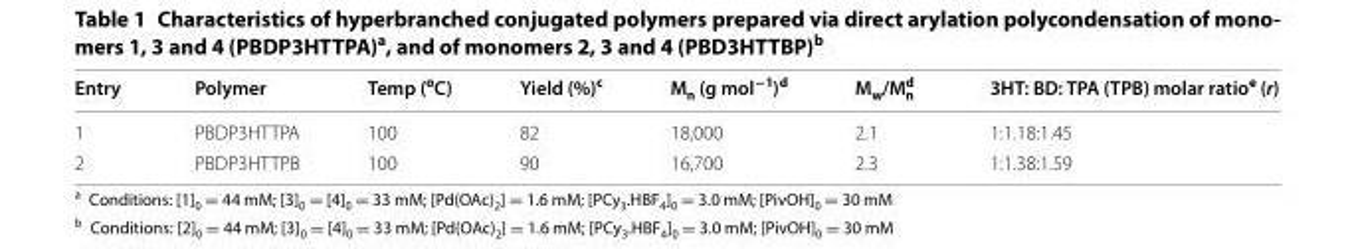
<table><thead><tr><td>Entry</td><td>Polymer</td><td>Temp (<sup>o</sup>C)</td><td>Yield (%)<sup>c</sup></td><td>M<sub>n</sub> (g mol<sup>−1</sup>)<sup>d</sup></td><td>M<sub>w</sub>/M<sub>n</sub> <sup>d</sup></td><td>3HT: BD: TPA (TPB) molar ratio<sup>e</sup> (r)</td></tr></thead><tbody><tr><td>1</td><td>PBDP3HTTPA</td><td>100</td><td>82</td><td>18,000</td><td>2.1</td><td>1:1.18:1.45</td></tr><tr><td>2</td><td>PBDP3HTTPB</td><td>100</td><td>90</td><td>16,700</td><td>2.3</td><td>1:1.38:1.59</td></tr></tbody></table>